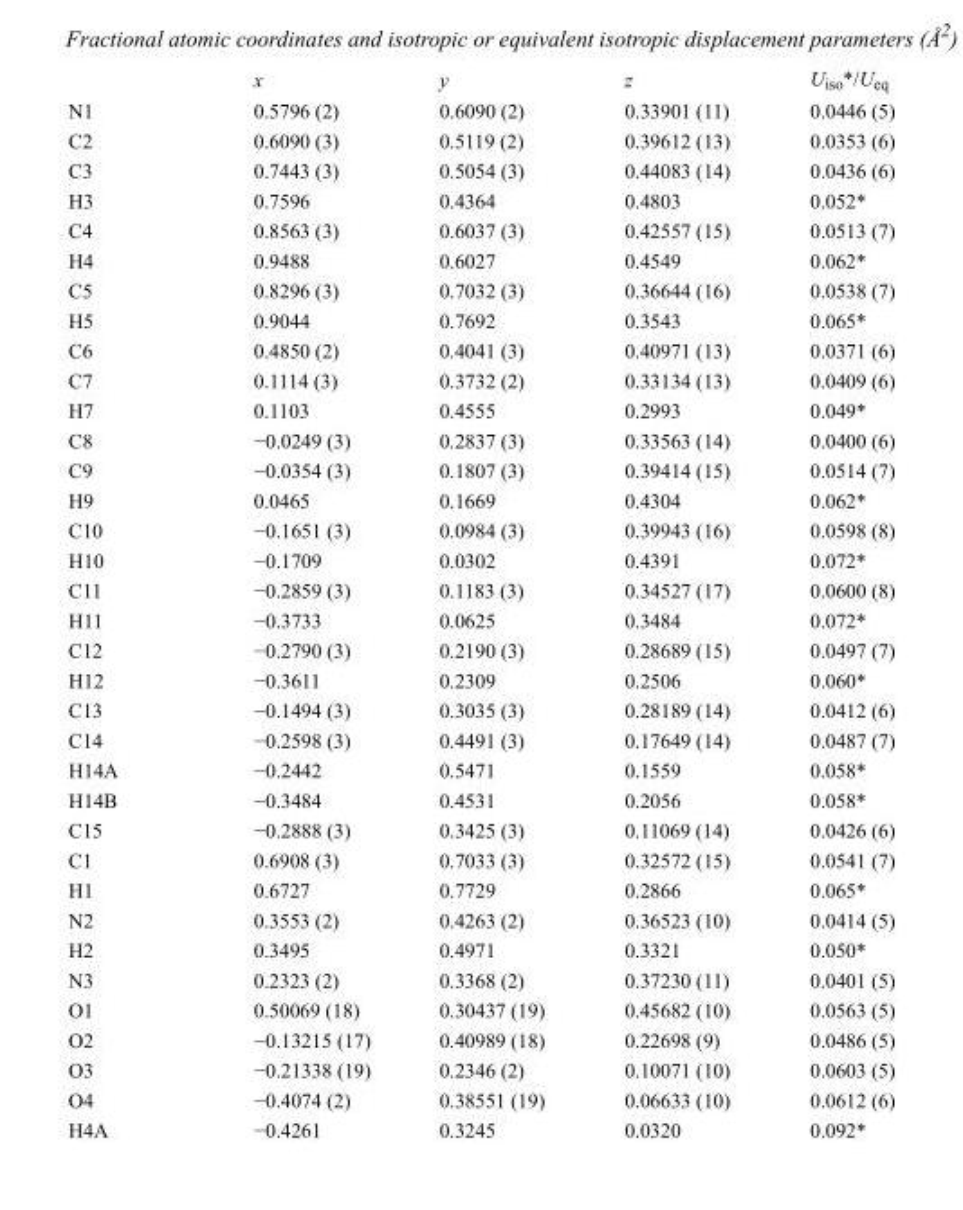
<table><thead><tr><td></td><td>x</td><td>y</td><td>z</td><td>U<sub>iso</sub>*/U<sub>eq</sub></td></tr></thead><tbody><tr><td>N1</td><td>0.5796 (2)</td><td>0.6090 (2)</td><td>0.33901 (11)</td><td>0.0446 (5)</td></tr><tr><td>C2</td><td>0.6090 (3)</td><td>0.5119 (2)</td><td>0.39612 (13)</td><td>0.0353 (6)</td></tr><tr><td>C3</td><td>0.7443 (3)</td><td>0.5054 (3)</td><td>0.44083 (14)</td><td>0.0436 (6)</td></tr><tr><td>H3</td><td>0.7596</td><td>0.4364</td><td>0.4803</td><td>0.052*</td></tr><tr><td>C4</td><td>0.8563 (3)</td><td>0.6037 (3)</td><td>0.42557 (15)</td><td>0.0513 (7)</td></tr><tr><td>H4</td><td>0.9488</td><td>0.6027</td><td>0.4549</td><td>0.062*</td></tr><tr><td>C5</td><td>0.8296 (3)</td><td>0.7032 (3)</td><td>0.36644 (16)</td><td>0.0538 (7)</td></tr><tr><td>H5</td><td>0.9044</td><td>0.7692</td><td>0.3543</td><td>0.065*</td></tr><tr><td>C6</td><td>0.4850 (2)</td><td>0.4041 (3)</td><td>0.40971 (13)</td><td>0.0371 (6)</td></tr><tr><td>C7</td><td>0.1114 (3)</td><td>0.3732 (2)</td><td>0.33134 (13)</td><td>0.0409 (6)</td></tr><tr><td>H7</td><td>0.1103</td><td>0.4555</td><td>0.2993</td><td>0.049*</td></tr><tr><td>C8</td><td>−0.0249 (3)</td><td>0.2837 (3)</td><td>0.33563 (14)</td><td>0.0400 (6)</td></tr><tr><td>C9</td><td>−0.0354 (3)</td><td>0.1807 (3)</td><td>0.39414 (15)</td><td>0.0514 (7)</td></tr><tr><td>H9</td><td>0.0465</td><td>0.1669</td><td>0.4304</td><td>0.062*</td></tr><tr><td>C10</td><td>−0.1651 (3)</td><td>0.0984 (3)</td><td>0.39943 (16)</td><td>0.0598 (8)</td></tr><tr><td>H10</td><td>−0.1709</td><td>0.0302</td><td>0.4391</td><td>0.072*</td></tr><tr><td>C11</td><td>−0.2859 (3)</td><td>0.1183 (3)</td><td>0.34527 (17)</td><td>0.0600 (8)</td></tr><tr><td>H11</td><td>−0.3733</td><td>0.0625</td><td>0.3484</td><td>0.072*</td></tr><tr><td>C12</td><td>−0.2790 (3)</td><td>0.2190 (3)</td><td>0.28689 (15)</td><td>0.0497 (7)</td></tr><tr><td>H12</td><td>−0.3611</td><td>0.2309</td><td>0.2506</td><td>0.060*</td></tr><tr><td>C13</td><td>−0.1494 (3)</td><td>0.3035 (3)</td><td>0.28189 (14)</td><td>0.0412 (6)</td></tr><tr><td>C14</td><td>−0.2598 (3)</td><td>0.4491 (3)</td><td>0.17649 (14)</td><td>0.0487 (7)</td></tr><tr><td>H14A</td><td>−0.2442</td><td>0.5471</td><td>0.1559</td><td>0.058*</td></tr><tr><td>H14B</td><td>−0.3484</td><td>0.4531</td><td>0.2056</td><td>0.058*</td></tr><tr><td>C15</td><td>−0.2888 (3)</td><td>0.3425 (3)</td><td>0.11069 (14)</td><td>0.0426 (6)</td></tr><tr><td>C1</td><td>0.6908 (3)</td><td>0.7033 (3)</td><td>0.32572 (15)</td><td>0.0541 (7)</td></tr><tr><td>H1</td><td>0.6727</td><td>0.7729</td><td>0.2866</td><td>0.065*</td></tr><tr><td>N2</td><td>0.3553 (2)</td><td>0.4263 (2)</td><td>0.36523 (10)</td><td>0.0414 (5)</td></tr><tr><td>H2</td><td>0.3495</td><td>0.4971</td><td>0.3321</td><td>0.050*</td></tr><tr><td>N3</td><td>0.2323 (2)</td><td>0.3368 (2)</td><td>0.37230 (11)</td><td>0.0401 (5)</td></tr><tr><td>O1</td><td>0.50069 (18)</td><td>0.30437 (19)</td><td>0.45682 (10)</td><td>0.0563 (5)</td></tr><tr><td>O2</td><td>−0.13215 (17)</td><td>0.40989 (18)</td><td>0.22698 (9)</td><td>0.0486 (5)</td></tr><tr><td>O3</td><td>−0.21338 (19)</td><td>0.2346 (2)</td><td>0.10071 (10)</td><td>0.0603 (5)</td></tr><tr><td>O4</td><td>−0.4074 (2)</td><td>0.38551 (19)</td><td>0.06633 (10)</td><td>0.0612 (6)</td></tr><tr><td>H4A</td><td>−0.4261</td><td>0.3245</td><td>0.0320</td><td>0.092*</td></tr></tbody></table>